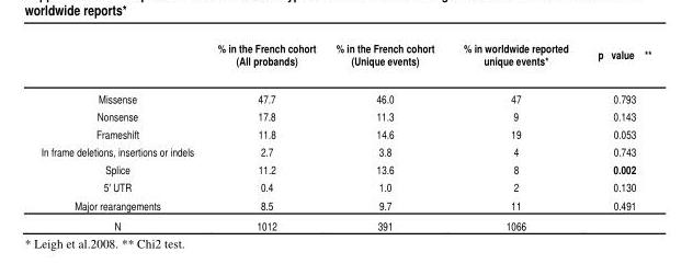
<table><thead><tr><td></td><td>% in the French cohort (All probands)</td><td>% in the French cohort (Unique events)</td><td>% in worldwide reported unique events*</td><td>p value **</td></tr></thead><tbody><tr><td>Missense</td><td>47.7</td><td>46.0</td><td>47</td><td>0.793</td></tr><tr><td>Nonsense</td><td>17.8</td><td>11.3</td><td>9</td><td>0.143</td></tr><tr><td>Frameshift</td><td>11.8</td><td>14.6</td><td>19</td><td>0.053</td></tr><tr><td>In frame deletions, insertions or indels</td><td>2.7</td><td>3.8</td><td>4</td><td>0.743</td></tr><tr><td>Splice</td><td>11.2</td><td>13.6</td><td>8</td><td>0.002</td></tr><tr><td>5&#x27; UTR</td><td>0.4</td><td>1.0</td><td>2</td><td>0.130</td></tr><tr><td>Major rearangements</td><td>8.5</td><td>9.7</td><td>11</td><td>0.491</td></tr><tr><td>N</td><td>1012</td><td>391</td><td>1066</td><td></td></tr></tbody></table>